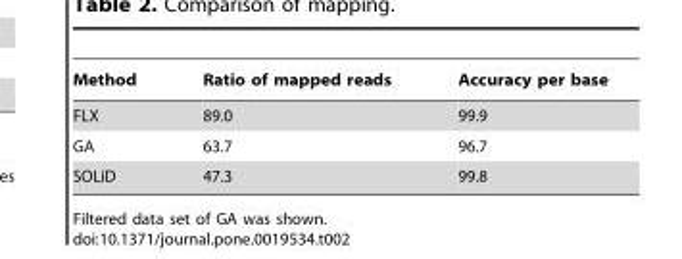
<table><thead><tr><td>Method</td><td>Ratio of mapped reads</td><td>Accuracy per base</td></tr></thead><tbody><tr><td>FLX</td><td>89.0</td><td>99.9</td></tr><tr><td>GA</td><td>63.7</td><td>96.7</td></tr><tr><td>SOLiD</td><td>47.3</td><td>99.8</td></tr></tbody></table>